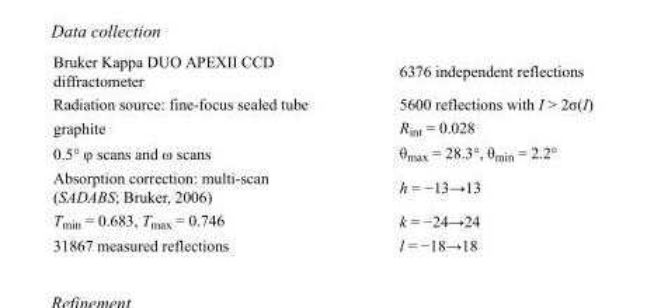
<table><tbody><tr><td>Bruker Kappa DUO APEXII CCD diffractometer</td><td>6376 independent reflections</td></tr><tr><td>Radiation source: fine-focus sealed tube</td><td>5600 reflections with I &gt; 2σ(I)</td></tr><tr><td>graphite</td><td>R<sub>int</sub> = 0.028</td></tr><tr><td>0.5° φ scans and ω scans</td><td>θ<sub>max</sub> = 28.3°, θ<sub>min</sub> = 2.2°</td></tr><tr><td>Absorption correction: multi-scan (SADABS; Bruker, 2006)</td><td>h = −13→13</td></tr><tr><td>T<sub>min</sub> = 0.683, T<sub>max</sub> = 0.746</td><td>k = −24→24</td></tr><tr><td>31867 measured reflections</td><td>l = −18→18</td></tr></tbody></table>